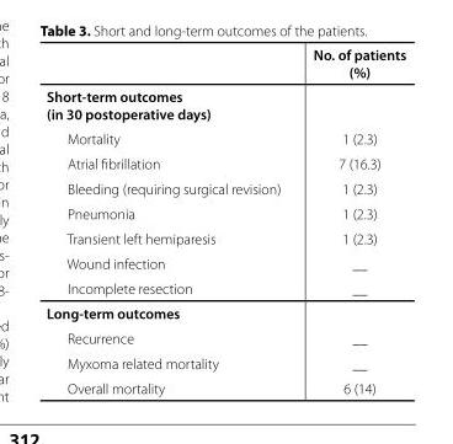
<table><thead><tr><td></td><td>No. of patients (%)</td></tr></thead><tbody><tr><td colspan="2">Short-term outcomes (in 30 postoperative days)</td></tr><tr><td>Mortality</td><td>1 (2.3)</td></tr><tr><td>Atrial fibrillation</td><td>7 (16.3)</td></tr><tr><td>Bleeding (requiring surgical revision)</td><td>1 (2.3)</td></tr><tr><td>Pneumonia</td><td>1 (2.3)</td></tr><tr><td>Transient left hemiparesis</td><td>1 (2.3)</td></tr><tr><td>Wound infection</td><td>__</td></tr><tr><td>Incomplete resection</td><td>__</td></tr><tr><td colspan="2">Long-term outcomes</td></tr><tr><td>Recurrence</td><td>__</td></tr><tr><td>Myxoma related mortality</td><td>__</td></tr><tr><td>Overall mortality</td><td>6 (14)</td></tr></tbody></table>